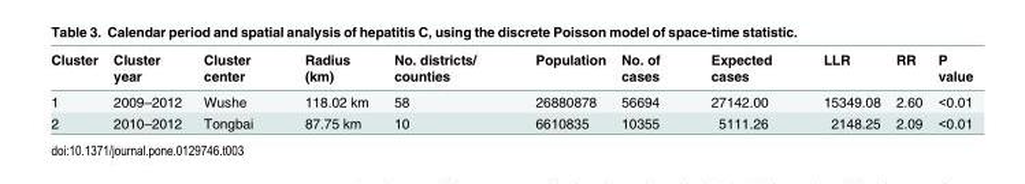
<table><thead><tr><td>Cluster</td><td>Cluster year</td><td>Cluster center</td><td>Radius (km)</td><td>No. districts/ counties</td><td>Population</td><td>No. of cases</td><td>Expected cases</td><td>LLR</td><td>RR</td><td>P value</td></tr></thead><tbody><tr><td>1</td><td>2009–2012</td><td>Wushe</td><td>118.02 km</td><td>58</td><td>26880878</td><td>56694</td><td>27142.00</td><td>15349.08</td><td>2.60</td><td>&lt;0.01</td></tr><tr><td>2</td><td>2010–2012</td><td>Tongbai</td><td>87.75 km</td><td>10</td><td>6610835</td><td>10355</td><td>5111.26</td><td>2148.25</td><td>2.09</td><td>&lt;0.01</td></tr></tbody></table>